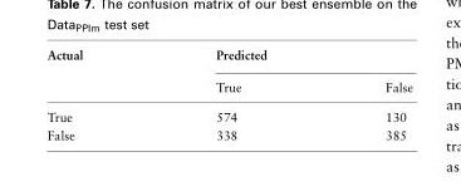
<table><thead><tr><td rowspan="2">Actual</td><td colspan="2">Predicted</td></tr><tr><td>True</td><td>False</td></tr></thead><tbody><tr><td>True</td><td>574</td><td>130</td></tr><tr><td>False</td><td>338</td><td>385</td></tr></tbody></table>